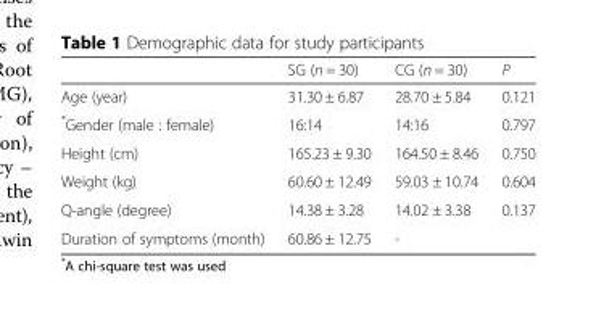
<table><thead><tr><td></td><td>SG (n = 30)</td><td>CG (n = 30)</td><td>P</td></tr></thead><tbody><tr><td>Age (year)</td><td>31.30 ± 6.87</td><td>28.70 ± 5.84</td><td>0.121</td></tr><tr><td>*Gender (male : female)</td><td>16:14</td><td>14:16</td><td>0.797</td></tr><tr><td>Height (cm)</td><td>165.23 ± 9.30</td><td>164.50 ± 8.46</td><td>0.750</td></tr><tr><td>Weight (kg)</td><td>60.60 ± 12.49</td><td>59.03 ± 10.74</td><td>0.604</td></tr><tr><td>Q-angle (degree)</td><td>14.38 ± 3.28</td><td>14.02 ± 3.38</td><td>0.137</td></tr><tr><td>Duration of symptoms (month)</td><td>60.86 ± 12.75</td><td>-</td><td></td></tr></tbody></table>